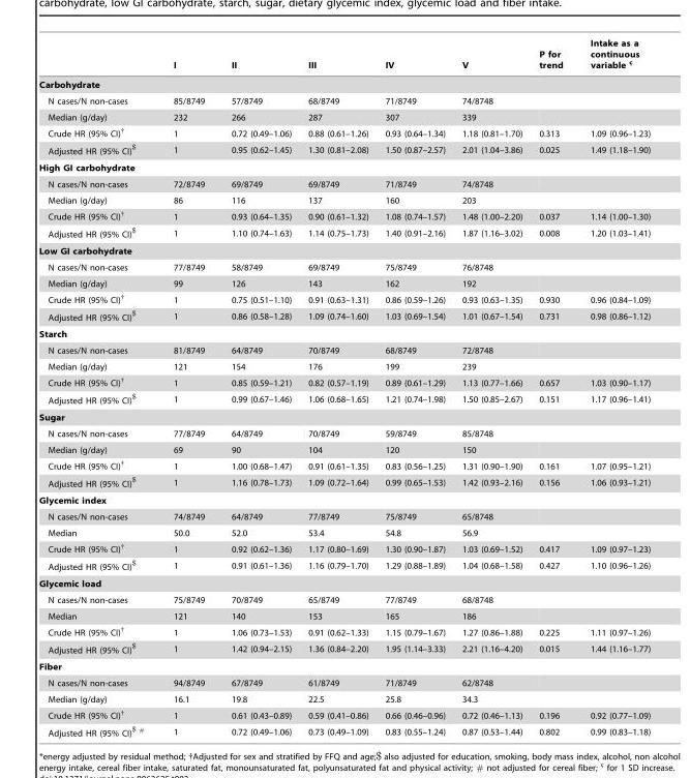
<table><thead><tr><td></td><td>I</td><td>II</td><td>III</td><td>IV</td><td>V</td><td>P for trend</td><td>Intake as a continuous variable c¸</td></tr></thead><tbody><tr><td colspan="8">Carbohydrate</td></tr><tr><td>N cases/N non-cases</td><td>85/8749</td><td>57/8749</td><td>68/8749</td><td>71/8749</td><td>74/8748</td><td></td><td></td></tr><tr><td>Median (g/day)</td><td>232</td><td>266</td><td>287</td><td>307</td><td>339</td><td></td><td></td></tr><tr><td>Crude HR (95% CI)<sup>†</sup></td><td>1</td><td>0.72 (0.49–1.06)</td><td>0.88 (0.61–1.26)</td><td>0.93 (0.64–1.34)</td><td>1.18 (0.81–1.70)</td><td>0.313</td><td>1.09 (0.96–1.23)</td></tr><tr><td>Adjusted HR (95% CI)<sup>$</sup></td><td>1</td><td>0.95 (0.62–1.45)</td><td>1.30 (0.81–2.08)</td><td>1.50 (0.87–2.57)</td><td>2.01 (1.04–3.86)</td><td>0.025</td><td>1.49 (1.18–1.90)</td></tr><tr><td colspan="8">High GI carbohydrate</td></tr><tr><td>N cases/N non-cases</td><td>72/8749</td><td>69/8749</td><td>69/8749</td><td>71/8749</td><td>74/8748</td><td></td><td></td></tr><tr><td>Median (g/day)</td><td>86</td><td>116</td><td>137</td><td>160</td><td>203</td><td></td><td></td></tr><tr><td>Crude HR (95% CI)<sup>†</sup></td><td>1</td><td>0.93 (0.64–1.35)</td><td>0.90 (0.61–1.32)</td><td>1.08 (0.74–1.57)</td><td>1.48 (1.00–2.20)</td><td>0.037</td><td>1.14 (1.00–1.30)</td></tr><tr><td>Adjusted HR (95% CI)<sup>$</sup></td><td>1</td><td>1.10 (0.74–1.63)</td><td>1.14 (0.75–1.73)</td><td>1.40 (0.91–2.16)</td><td>1.87 (1.16–3.02)</td><td>0.008</td><td>1.20 (1.03–1.41)</td></tr><tr><td colspan="8">Low GI carbohydrate</td></tr><tr><td>N cases/N non-cases</td><td>77/8749</td><td>58/8749</td><td>69/8749</td><td>75/8749</td><td>76/8748</td><td></td><td></td></tr><tr><td>Median (g/day)</td><td>99</td><td>126</td><td>143</td><td>162</td><td>192</td><td></td><td></td></tr><tr><td>Crude HR (95% CI)<sup>†</sup></td><td>1</td><td>0.75 (0.51–1.10)</td><td>0.91 (0.63–1.31)</td><td>0.86 (0.59–1.26)</td><td>0.93 (0.63–1.35)</td><td>0.930</td><td>0.96 (0.84–1.09)</td></tr><tr><td>Adjusted HR (95% CI)<sup>$</sup></td><td>1</td><td>0.86 (0.58–1.28)</td><td>1.09 (0.74–1.60)</td><td>1.03 (0.69–1.54)</td><td>1.01 (0.67–1.54)</td><td>0.731</td><td>0.98 (0.86–1.12)</td></tr><tr><td colspan="8">Starch</td></tr><tr><td>N cases/N non-cases</td><td>81/8749</td><td>64/8749</td><td>70/8749</td><td>68/8749</td><td>72/8748</td><td></td><td></td></tr><tr><td>Median (g/day)</td><td>121</td><td>154</td><td>176</td><td>199</td><td>239</td><td></td><td></td></tr><tr><td>Crude HR (95% CI)<sup>†</sup></td><td>1</td><td>0.85 (0.59–1.21)</td><td>0.82 (0.57–1.19)</td><td>0.89 (0.61–1.29)</td><td>1.13 (0.77–1.66)</td><td>0.657</td><td>1.03 (0.90–1.17)</td></tr><tr><td>Adjusted HR (95% CI)<sup>$</sup></td><td>1</td><td>0.99 (0.67–1.46)</td><td>1.06 (0.68–1.65)</td><td>1.21 (0.74–1.98)</td><td>1.50 (0.85–2.67)</td><td>0.151</td><td>1.17 (0.96–1.41)</td></tr><tr><td colspan="8">Sugar</td></tr><tr><td>N cases/N non-cases</td><td>77/8749</td><td>64/8749</td><td>70/8749</td><td>59/8749</td><td>85/8748</td><td></td><td></td></tr><tr><td>Median (g/day)</td><td>69</td><td>90</td><td>104</td><td>120</td><td>150</td><td></td><td></td></tr><tr><td>Crude HR (95% CI)<sup>†</sup></td><td>1</td><td>1.00 (0.68–1.47)</td><td>0.91 (0.61–1.35)</td><td>0.83 (0.56–1.25)</td><td>1.31 (0.90–1.90)</td><td>0.161</td><td>1.07 (0.95–1.21)</td></tr><tr><td>Adjusted HR (95% CI)<sup>$</sup></td><td>1</td><td>1.16 (0.78–1.73)</td><td>1.09 (0.72–1.64)</td><td>0.99 (0.65–1.53)</td><td>1.42 (0.93–2.16)</td><td>0.156</td><td>1.06 (0.93–1.21)</td></tr><tr><td colspan="8">Glycemic index</td></tr><tr><td>N cases/N non-cases</td><td>74/8749</td><td>64/8749</td><td>77/8749</td><td>75/8749</td><td>65/8748</td><td></td><td></td></tr><tr><td>Median</td><td>50.0</td><td>52.0</td><td>53.4</td><td>54.8</td><td>56.9</td><td></td><td></td></tr><tr><td>Crude HR (95% CI)<sup>†</sup></td><td>1</td><td>0.92 (0.62–1.36)</td><td>1.17 (0.80–1.69)</td><td>1.30 (0.90–1.87)</td><td>1.03 (0.69–1.52)</td><td>0.417</td><td>1.09 (0.97–1.23)</td></tr><tr><td>Adjusted HR (95% CI)<sup>$</sup></td><td>1</td><td>0.91 (0.61–1.36)</td><td>1.16 (0.79–1.70)</td><td>1.29 (0.88–1.89)</td><td>1.04 (0.68–1.58)</td><td>0.427</td><td>1.10 (0.96–1.26)</td></tr><tr><td colspan="8">Glycemic load</td></tr><tr><td>N cases/N non-cases</td><td>75/8749</td><td>70/8749</td><td>65/8749</td><td>77/8749</td><td>68/8748</td><td></td><td></td></tr><tr><td>Median</td><td>121</td><td>140</td><td>153</td><td>165</td><td>186</td><td></td><td></td></tr><tr><td>Crude HR (95% CI)<sup>†</sup></td><td>1</td><td>1.06 (0.73–1.53)</td><td>0.91 (0.62–1.33)</td><td>1.15 (0.79–1.67)</td><td>1.27 (0.86–1.88)</td><td>0.225</td><td>1.11 (0.97–1.26)</td></tr><tr><td>Adjusted HR (95% CI)<sup>$</sup></td><td>1</td><td>1.42 (0.94–2.15)</td><td>1.36 (0.84–2.20)</td><td>1.95 (1.14–3.33)</td><td>2.21 (1.16–4.20)</td><td>0.015</td><td>1.44 (1.16–1.77)</td></tr><tr><td colspan="8">Fiber</td></tr><tr><td>N cases/N non-cases</td><td>94/8749</td><td>67/8749</td><td>61/8749</td><td>71/8749</td><td>62/8748</td><td></td><td></td></tr><tr><td>Median (g/day)</td><td>16.1</td><td>19.8</td><td>22.5</td><td>25.8</td><td>34.3</td><td></td><td></td></tr><tr><td>Crude HR (95% CI)<sup>†</sup></td><td>1</td><td>0.61 (0.43–0.89)</td><td>0.59 (0.41–0.86)</td><td>0.66 (0.46–0.96)</td><td>0.72 (0.46–1.13)</td><td>0.196</td><td>0.92 (0.77–1.09)</td></tr><tr><td>Adjusted HR (95% CI)<sup>$ #</sup></td><td>1</td><td>0.72 (0.49–1.06)</td><td>0.73 (0.49–1.09)</td><td>0.83 (0.55–1.24)</td><td>0.87 (0.53–1.44)</td><td>0.802</td><td>0.99 (0.83–1.18)</td></tr></tbody></table>